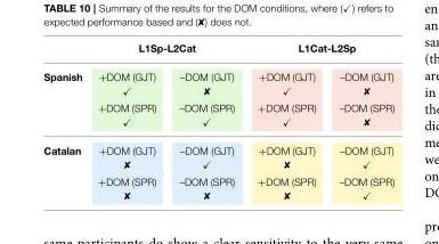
<table><thead><tr><td rowspan="2">Spanish</td><td colspan="2">L1Sp-L2Cat</td><td colspan="2">L1Cat-L2Sp</td></tr><tr><td>+DOM (GJT) ✓</td><td>–DOM (GJT)</td><td>+DOM (GJT) ✓</td><td>–DOM (GJT)</td></tr></thead><tbody><tr><td></td><td>+DOM (SPR) ✓</td><td>–DOM (SPR) ✓</td><td>+DOM (SPR) ✓</td><td>–DOM (SPR)</td></tr><tr><td rowspan="2">Catalan</td><td>+DOM (GJT)</td><td>–DOM (GJT) ✓</td><td>+DOM (GJT)</td><td>–DOM (GJT) ✓</td></tr><tr><td>+DOM (SPR)</td><td>–DOM (SPR)</td><td>+DOM (SPR)</td><td>–DOM (SPR) ✓</td></tr></tbody></table>